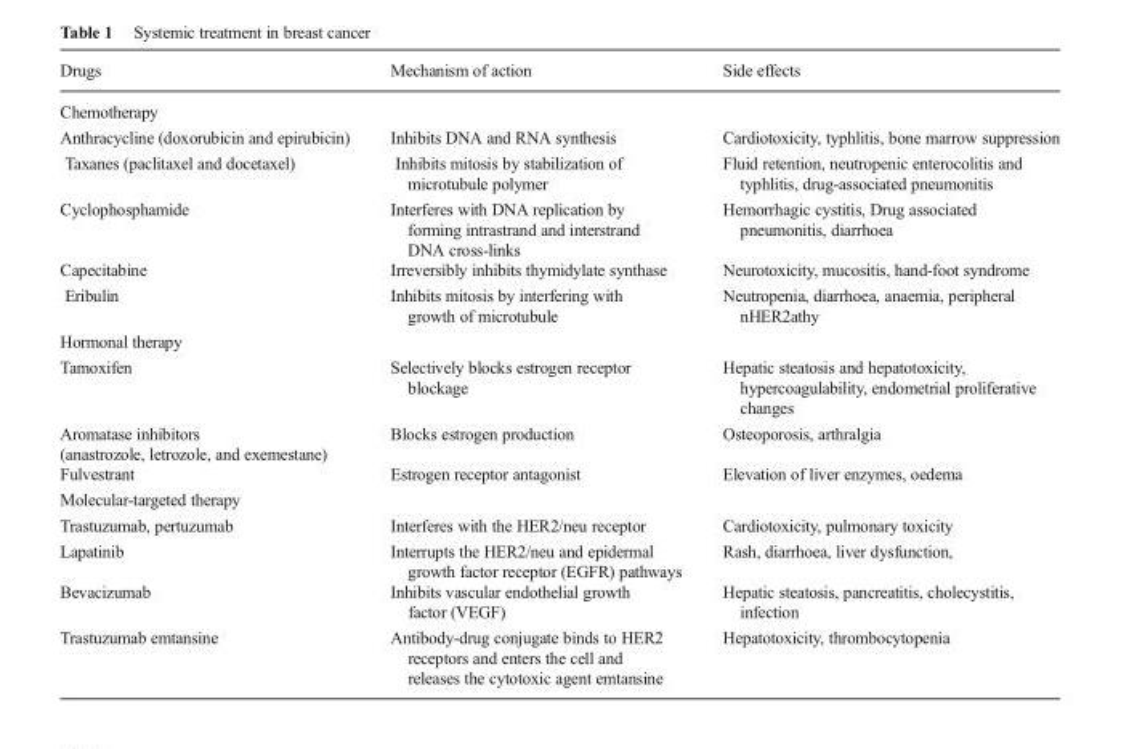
<table><thead><tr><td>Drugs</td><td>Mechanism of action</td><td>Side effects</td></tr></thead><tbody><tr><td colspan="3">Chemotherapy</td></tr><tr><td>Anthracycline (doxorubicin and epirubicin)</td><td>Inhibits DNA and RNA synthesis</td><td>Cardiotoxicity, typhlitis, bone marrow suppression</td></tr><tr><td>Taxanes (paclitaxel and docetaxel)</td><td>Inhibits mitosis by stabilization of microtubule polymer</td><td>Fluid retention, neutropenic enterocolitis and typhlitis, drug-associated pneumonitis</td></tr><tr><td>Cyclophosphamide</td><td>Interferes with DNA replication by forming intrastrand and interstrand DNA cross-links</td><td>Hemorrhagic cystitis, Drug associated pneumonitis, diarrhoea</td></tr><tr><td>Capecitabine</td><td>Irreversibly inhibits thymidylate synthase</td><td>Neurotoxicity, mucositis, hand-foot syndrome</td></tr><tr><td>Eribulin</td><td>Inhibits mitosis by interfering with growth of microtubule</td><td>Neutropenia, diarrhoea, anaemia, peripheral nHER2athy</td></tr><tr><td colspan="3">Hormonal therapy</td></tr><tr><td>Tamoxifen</td><td>Selectively blocks estrogen receptor blockage</td><td>Hepatic steatosis and hepatotoxicity, hypercoagulability, endometrial proliferative changes</td></tr><tr><td>Aromatase inhibitors (anastrozole, letrozole, and exemestane)</td><td>Blocks estrogen production</td><td>Osteoporosis, arthralgia</td></tr><tr><td>Fulvestrant</td><td>Estrogen receptor antagonist</td><td>Elevation of liver enzymes, oedema</td></tr><tr><td colspan="3">Molecular-targeted therapy</td></tr><tr><td>Trastuzumab, pertuzumab</td><td>Interferes with the HER2/neu receptor</td><td>Cardiotoxicity, pulmonary toxicity</td></tr><tr><td>Lapatinib</td><td>Interrupts the HER2/neu and epidermal growth factor receptor (EGFR) pathways</td><td>Rash, diarrhoea, liver dysfunction,</td></tr><tr><td>Bevacizumab</td><td>Inhibits vascular endothelial growth factor (VEGF)</td><td>Hepatic steatosis, pancreatitis, cholecystitis, infection</td></tr><tr><td>Trastuzumab emtansine</td><td>Antibody-drug conjugate binds to HER2 receptors and enters the cell and releases the cytotoxic agent emtansine</td><td>Hepatotoxicity, thrombocytopenia</td></tr></tbody></table>